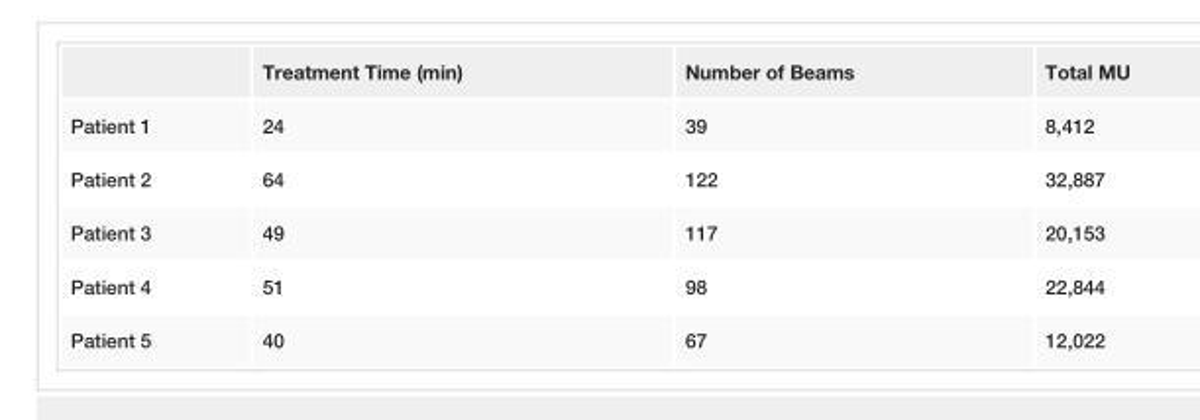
<table><thead><tr><td></td><td>Treatment Time (min)</td><td>Number of Beams</td><td>Total MU</td></tr></thead><tbody><tr><td>Patient 1</td><td>24</td><td>39</td><td>8,412</td></tr><tr><td>Patient 2</td><td>64</td><td>122</td><td>32,887</td></tr><tr><td>Patient 3</td><td>49</td><td>117</td><td>20,153</td></tr><tr><td>Patient 4</td><td>51</td><td>98</td><td>22,844</td></tr><tr><td>Patient 5</td><td>40</td><td>67</td><td>12,022</td></tr></tbody></table>